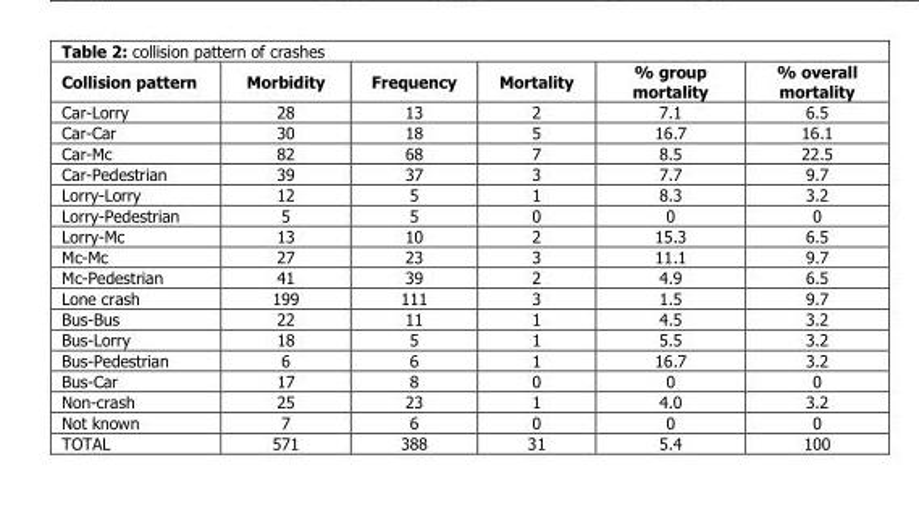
<table><thead><tr><td>Collision pattern</td><td>Morbidity</td><td>Frequency</td><td>Mortality</td><td>% group mortality</td><td>% overall mortality</td></tr></thead><tbody><tr><td>Car-Lorry</td><td>28</td><td>13</td><td>2</td><td>7.1</td><td>6.5</td></tr><tr><td>Car-Car</td><td>30</td><td>18</td><td>5</td><td>16.7</td><td>16.1</td></tr><tr><td>Car-Mc</td><td>82</td><td>68</td><td>7</td><td>8.5</td><td>22.5</td></tr><tr><td>Car-Pedestrian</td><td>39</td><td>37</td><td>3</td><td>7.7</td><td>9.7</td></tr><tr><td>Lorry-Lorry</td><td>12</td><td>5</td><td>1</td><td>8.3</td><td>3.2</td></tr><tr><td>Lorry-Pedestrian</td><td>5</td><td>5</td><td>0</td><td>0</td><td>0</td></tr><tr><td>Lorry-Mc</td><td>13</td><td>10</td><td>2</td><td>15.3</td><td>6.5</td></tr><tr><td>Mc-Mc</td><td>27</td><td>23</td><td>3</td><td>11.1</td><td>9.7</td></tr><tr><td>Mc-Pedestrian</td><td>41</td><td>39</td><td>2</td><td>4.9</td><td>6.5</td></tr><tr><td>Lone crash</td><td>199</td><td>111</td><td>3</td><td>1.5</td><td>9.7</td></tr><tr><td>Bus-Bus</td><td>22</td><td>11</td><td>1</td><td>4.5</td><td>3.2</td></tr><tr><td>Bus-Lorry</td><td>18</td><td>5</td><td>1</td><td>5.5</td><td>3.2</td></tr><tr><td>Bus-Pedestrian</td><td>6</td><td>6</td><td>1</td><td>16.7</td><td>3.2</td></tr><tr><td>Bus-Car</td><td>17</td><td>8</td><td>0</td><td>0</td><td>0</td></tr><tr><td>Non-crash</td><td>25</td><td>23</td><td>1</td><td>4.0</td><td>3.2</td></tr><tr><td>Not known</td><td>7</td><td>6</td><td>0</td><td>0</td><td>0</td></tr><tr><td>TOTAL</td><td>571</td><td>388</td><td>31</td><td>5.4</td><td>100</td></tr></tbody></table>